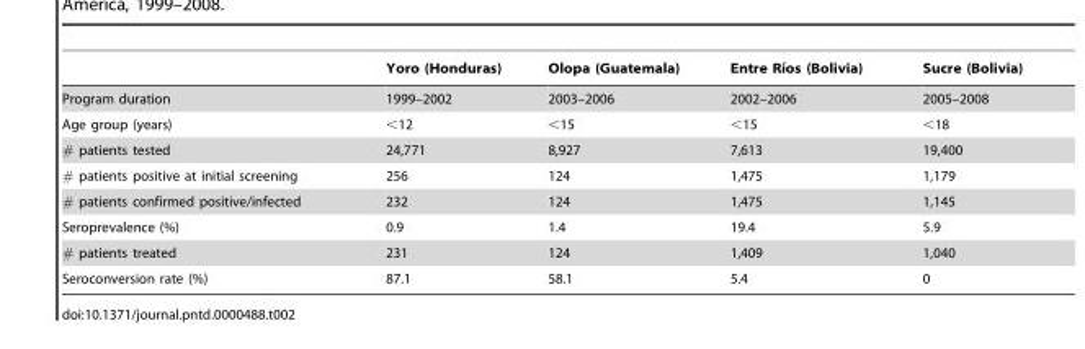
<table><thead><tr><td></td><td>Yoro (Honduras)</td><td>Olopa (Guatemala)</td><td>Entre Rı´os (Bolivia)</td><td>Sucre (Bolivia)</td></tr></thead><tbody><tr><td>Program duration</td><td>1999–2002</td><td>2003–2006</td><td>2002–2006</td><td>2005–2008</td></tr><tr><td>Age group (years)</td><td>&lt;12</td><td>&lt;15</td><td>&lt;15</td><td>&lt;18</td></tr><tr><td># patients tested</td><td>24,771</td><td>8,927</td><td>7,613</td><td>19,400</td></tr><tr><td># patients positive at initial screening</td><td>256</td><td>124</td><td>1,475</td><td>1,179</td></tr><tr><td># patients confirmed positive/infected</td><td>232</td><td>124</td><td>1,475</td><td>1,145</td></tr><tr><td>Seroprevalence (%)</td><td>0.9</td><td>1.4</td><td>19.4</td><td>5.9</td></tr><tr><td># patients treated</td><td>231</td><td>124</td><td>1,409</td><td>1,040</td></tr><tr><td>Seroconversion rate (%)</td><td>87.1</td><td>58.1</td><td>5.4</td><td>0</td></tr></tbody></table>